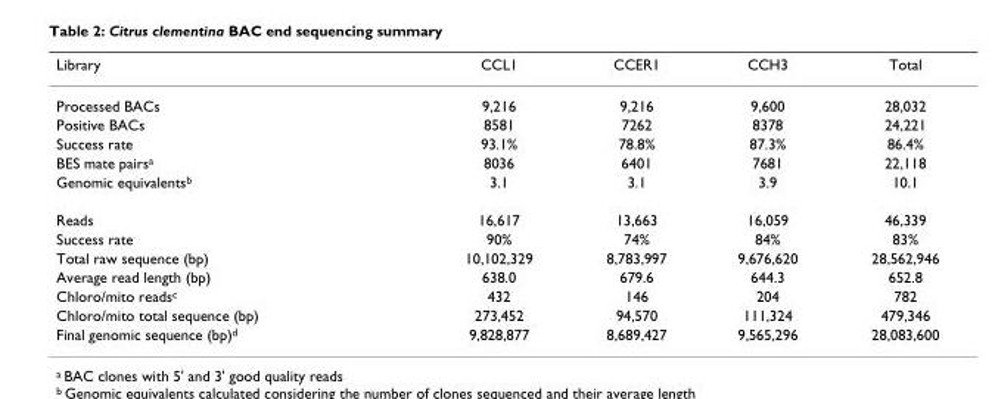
<table><thead><tr><td>Library</td><td>CCL1</td><td>CCER1</td><td>CCH3</td><td>Total</td></tr></thead><tbody><tr><td>Processed BACs</td><td>9,216</td><td>9,216</td><td>9,600</td><td>28,032</td></tr><tr><td>Positive BACs</td><td>8581</td><td>7262</td><td>8378</td><td>24,221</td></tr><tr><td>Success rate</td><td>93.1%</td><td>78.8%</td><td>87.3%</td><td>86.4%</td></tr><tr><td>BES mate pairs<sup>a</sup></td><td>8036</td><td>6401</td><td>7681</td><td>22,118</td></tr><tr><td>Genomic equivalents<sup>b</sup></td><td>3.1</td><td>3.1</td><td>3.9</td><td>10.1</td></tr><tr><td>Reads</td><td>16,617</td><td>13,663</td><td>16,059</td><td>46,339</td></tr><tr><td>Success rate</td><td>90%</td><td>74%</td><td>84%</td><td>83%</td></tr><tr><td>Total raw sequence (bp)</td><td>10,102,329</td><td>8,783,997</td><td>9,676,620</td><td>28,562,946</td></tr><tr><td>Average read length (bp)</td><td>638.0</td><td>679.6</td><td>644.3</td><td>652.8</td></tr><tr><td>Chloro/mito reads<sup>c</sup></td><td>432</td><td>146</td><td>204</td><td>782</td></tr><tr><td>Chloro/mito total sequence (bp)</td><td>273,452</td><td>94,570</td><td>111,324</td><td>479,346</td></tr><tr><td>Final genomic sequence (bp)<sup>d</sup></td><td>9,828,877</td><td>8,689,427</td><td>9,565,296</td><td>28,083,600</td></tr></tbody></table>